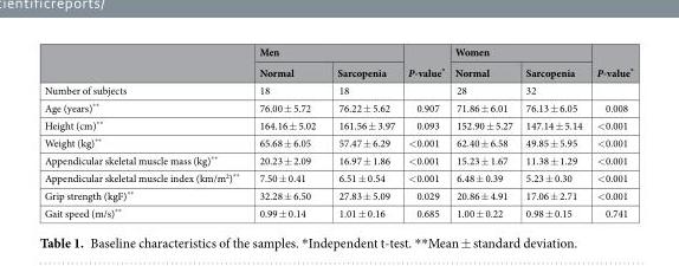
<table><thead><tr><td rowspan="2"></td><td colspan="2">Men</td><td rowspan="2">P-value*</td><td colspan="2">Women</td><td rowspan="2">P-value*</td></tr><tr><td>Normal</td><td>Sarcopenia</td><td>Normal</td><td>Sarcopenia</td></tr></thead><tbody><tr><td>Number of subjects</td><td>18</td><td>18</td><td></td><td>28</td><td>32</td><td></td></tr><tr><td>Age (years)**</td><td>76.00 ± 5.72</td><td>76.22 ± 5.62</td><td>0.907</td><td>71.86 ± 6.01</td><td>76.13 ± 6.05</td><td>0.008</td></tr><tr><td>Height (cm)**</td><td>164.16 ± 5.02</td><td>161.56 ± 3.97</td><td>0.093</td><td>152.90 ± 5.27</td><td>147.14 ± 5.14</td><td>&lt;0.001</td></tr><tr><td>Weight (kg)**</td><td>65.68 ± 6.05</td><td>57.47 ± 6.29</td><td>&lt;0.001</td><td>62.40 ± 6.58</td><td>49.85 ± 5.95</td><td>&lt;0.001</td></tr><tr><td>Appendicular skeletal muscle mass (kg)**</td><td>20.23 ± 2.09</td><td>16.97 ± 1.86</td><td>&lt;0.001</td><td>15.23 ± 1.67</td><td>11.38 ± 1.29</td><td>&lt;0.001</td></tr><tr><td>Appendicular skeletal muscle index (km/m<sup>2</sup>)**</td><td>7.50 ± 0.41</td><td>6.51 ± 0.54</td><td>&lt;0.001</td><td>6.48 ± 0.39</td><td>5.23 ± 0.30</td><td>&lt;0.001</td></tr><tr><td>Grip strength (kgF)**</td><td>32.28 ± 6.50</td><td>27.83 ± 5.09</td><td>0.029</td><td>20.86 ± 4.91</td><td>17.06 ± 2.71</td><td>&lt;0.001</td></tr><tr><td>Gait speed (m/s)**</td><td>0.99 ± 0.14</td><td>1.01 ± 0.16</td><td>0.685</td><td>1.00 ± 0.22</td><td>0.98 ± 0.15</td><td>0.741</td></tr></tbody></table>